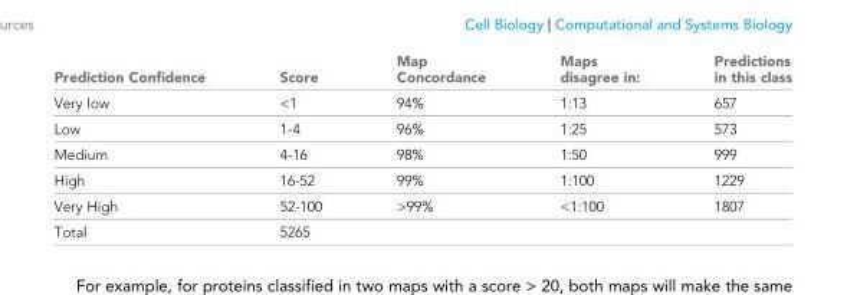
<table><thead><tr><td>Prediction Confidence</td><td>Score</td><td>Map Concordance</td><td>Maps disagree in:</td><td>Predictions in this class</td></tr></thead><tbody><tr><td>Very low</td><td>&lt;1</td><td>94%</td><td>1:13</td><td>657</td></tr><tr><td>Low</td><td>1-4</td><td>96%</td><td>1:25</td><td>573</td></tr><tr><td>Medium</td><td>4-16</td><td>98%</td><td>1:50</td><td>999</td></tr><tr><td>High</td><td>16-52</td><td>99%</td><td>1:100</td><td>1229</td></tr><tr><td>Very High</td><td>52-100</td><td>&gt;99%</td><td>&lt;1:100</td><td>1807</td></tr><tr><td>Total</td><td colspan="4">5265</td></tr></tbody></table>